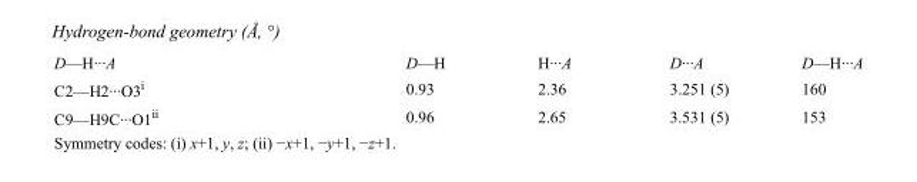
<table><tbody><tr><td>D—H···A</td><td>D—H</td><td>H···A</td><td>D···A</td><td>D—H···A</td></tr><tr><td>C2—H2···O3<sup>i</sup></td><td>0.93</td><td>2.36</td><td>3.251 (5)</td><td>160</td></tr><tr><td>C9—H9C···O1<sup>ii</sup></td><td>0.96</td><td>2.65</td><td>3.531 (5)</td><td>153</td></tr></tbody></table>